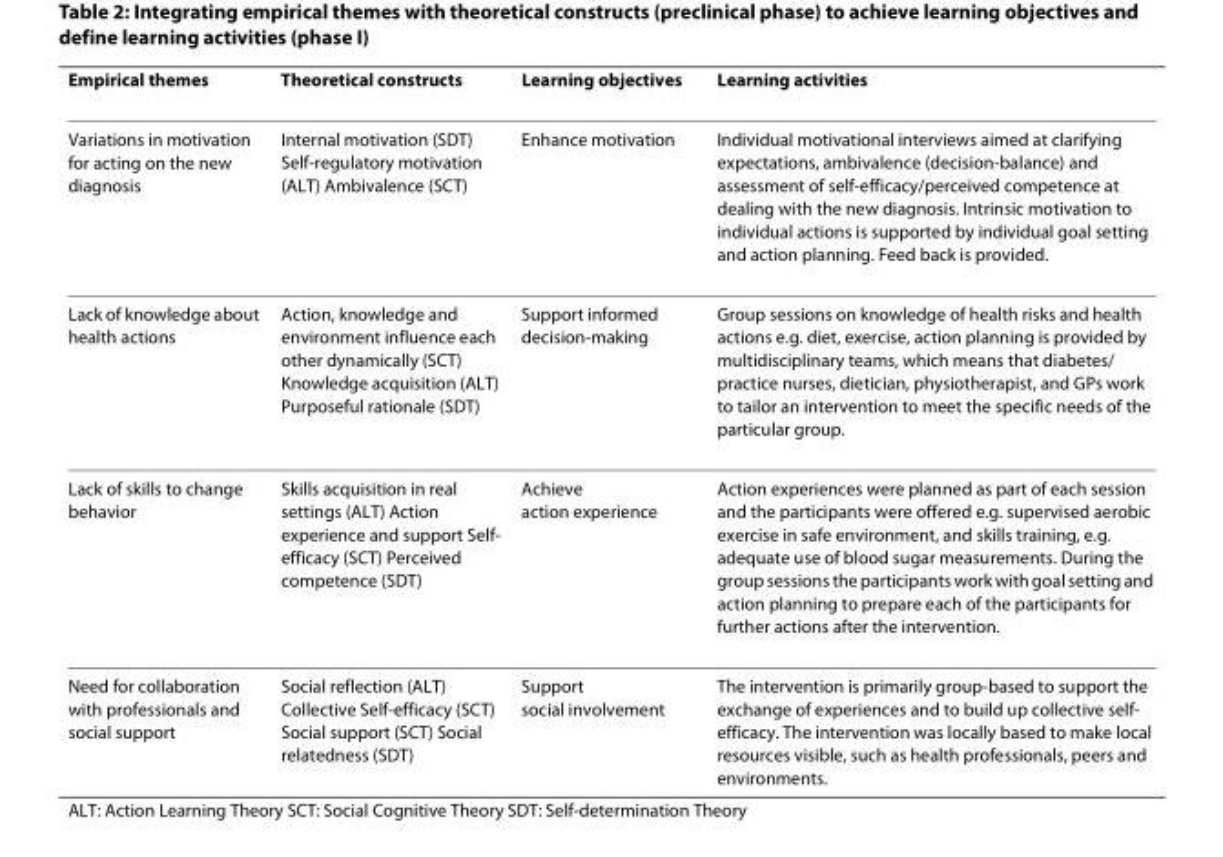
<table><thead><tr><td>Empirical themes</td><td>Theoretical constructs</td><td>Learning objectives</td><td>Learning activities</td></tr></thead><tbody><tr><td>Variations in motivation for acting on the new diagnosis</td><td>Internal motivation (SDT) Self-regulatory motivation (ALT) Ambivalence (SCT)</td><td>Enhance motivation</td><td>Individual motivational interviews aimed at clarifying expectations, ambivalence (decision-balance) and assessment of self-efficacy/perceived competence at dealing with the new diagnosis. Intrinsic motivation to individual actions is supported by individual goal setting and action planning. Feed back is provided.</td></tr><tr><td>Lack of knowledge about health actions</td><td>Action, knowledge and environment influence each other dynamically (SCT) Knowledge acquisition (ALT) Purposeful rationale (SDT)</td><td>Support informed decision-making</td><td>Group sessions on knowledge of health risks and health actions e.g. diet, exercise, action planning is provided by multidisciplinary teams, which means that diabetes/ practice nurses, dietician, physiotherapist, and GPs work to tailor an intervention to meet the specific needs of the particular group.</td></tr><tr><td>Lack of skills to change behavior</td><td>Skills acquisition in real settings (ALT) Action experience and support Self- efficacy (SCT) Perceived competence (SDT)</td><td>Achieve action experience</td><td>Action experiences were planned as part of each session and the participants were offered e.g. supervised aerobic exercise in safe environment, and skills training, e.g. adequate use of blood sugar measurements. During the group sessions the participants work with goal setting and action planning to prepare each of the participants for further actions after the intervention.</td></tr><tr><td>Need for collaboration with professionals and social support</td><td>Social reflection (ALT) Collective Self-efficacy (SCT) Social support (SCT) Social relatedness (SDT)</td><td>Support social involvement</td><td>The intervention is primarily group-based to support the exchange of experiences and to build up collective self- efficacy. The intervention was locally based to make local resources visible, such as health professionals, peers and environments.</td></tr></tbody></table>